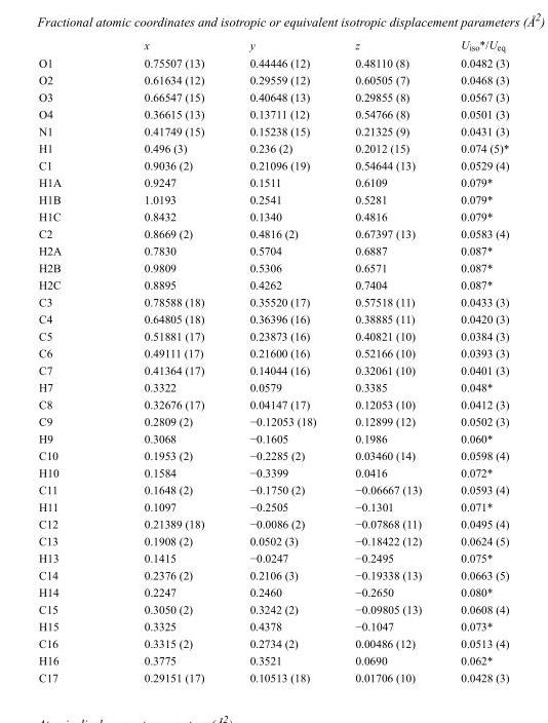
<table><thead><tr><td></td><td>x</td><td>y</td><td>z</td><td>U<sub>iso</sub>*/U<sub>eq</sub></td></tr></thead><tbody><tr><td>O1</td><td>0.75507 (13)</td><td>0.44446 (12)</td><td>0.48110 (8)</td><td>0.0482 (3)</td></tr><tr><td>O2</td><td>0.61634 (12)</td><td>0.29559 (12)</td><td>0.60505 (7)</td><td>0.0468 (3)</td></tr><tr><td>O3</td><td>0.66547 (15)</td><td>0.40648 (13)</td><td>0.29855 (8)</td><td>0.0567 (3)</td></tr><tr><td>O4</td><td>0.36615 (13)</td><td>0.13711 (12)</td><td>0.54766 (8)</td><td>0.0501 (3)</td></tr><tr><td>N1</td><td>0.41749 (15)</td><td>0.15238 (15)</td><td>0.21325 (9)</td><td>0.0431 (3)</td></tr><tr><td>H1</td><td>0.496 (3)</td><td>0.236 (2)</td><td>0.2012 (15)</td><td>0.074 (5)*</td></tr><tr><td>C1</td><td>0.9036 (2)</td><td>0.21096 (19)</td><td>0.54644 (13)</td><td>0.0529 (4)</td></tr><tr><td>H1A</td><td>0.9247</td><td>0.1511</td><td>0.6109</td><td>0.079*</td></tr><tr><td>H1B</td><td>1.0193</td><td>0.2541</td><td>0.5281</td><td>0.079*</td></tr><tr><td>H1C</td><td>0.8432</td><td>0.1340</td><td>0.4816</td><td>0.079*</td></tr><tr><td>C2</td><td>0.8669 (2)</td><td>0.4816 (2)</td><td>0.67397 (13)</td><td>0.0583 (4)</td></tr><tr><td>H2A</td><td>0.7830</td><td>0.5704</td><td>0.6887</td><td>0.087*</td></tr><tr><td>H2B</td><td>0.9809</td><td>0.5306</td><td>0.6571</td><td>0.087*</td></tr><tr><td>H2C</td><td>0.8895</td><td>0.4262</td><td>0.7404</td><td>0.087*</td></tr><tr><td>C3</td><td>0.78588 (18)</td><td>0.35520 (17)</td><td>0.57518 (11)</td><td>0.0433 (3)</td></tr><tr><td>C4</td><td>0.64805 (18)</td><td>0.36396 (16)</td><td>0.38885 (11)</td><td>0.0420 (3)</td></tr><tr><td>C5</td><td>0.51881 (17)</td><td>0.23873 (16)</td><td>0.40821 (10)</td><td>0.0384 (3)</td></tr><tr><td>C6</td><td>0.49111 (17)</td><td>0.21600 (16)</td><td>0.52166 (10)</td><td>0.0393 (3)</td></tr><tr><td>C7</td><td>0.41364 (17)</td><td>0.14044 (16)</td><td>0.32061 (10)</td><td>0.0401 (3)</td></tr><tr><td>H7</td><td>0.3322</td><td>0.0579</td><td>0.3385</td><td>0.048*</td></tr><tr><td>C8</td><td>0.32676 (17)</td><td>0.04147 (17)</td><td>0.12053 (10)</td><td>0.0412 (3)</td></tr><tr><td>C9</td><td>0.2809 (2)</td><td>−0.12053 (18)</td><td>0.12899 (12)</td><td>0.0502 (3)</td></tr><tr><td>H9</td><td>0.3068</td><td>−0.1605</td><td>0.1986</td><td>0.060*</td></tr><tr><td>C10</td><td>0.1953 (2)</td><td>−0.2285 (2)</td><td>0.03460 (14)</td><td>0.0598 (4)</td></tr><tr><td>H10</td><td>0.1584</td><td>−0.3399</td><td>0.0416</td><td>0.072*</td></tr><tr><td>C11</td><td>0.1648 (2)</td><td>−0.1750 (2)</td><td>−0.06667 (13)</td><td>0.0593 (4)</td></tr><tr><td>H11</td><td>0.1097</td><td>−0.2505</td><td>−0.1301</td><td>0.071*</td></tr><tr><td>C12</td><td>0.21389 (18)</td><td>−0.0086 (2)</td><td>−0.07868 (11)</td><td>0.0495 (4)</td></tr><tr><td>C13</td><td>0.1908 (2)</td><td>0.0502 (3)</td><td>−0.18422 (12)</td><td>0.0624 (5)</td></tr><tr><td>H13</td><td>0.1415</td><td>−0.0247</td><td>−0.2495</td><td>0.075*</td></tr><tr><td>C14</td><td>0.2376 (2)</td><td>0.2106 (3)</td><td>−0.19338 (13)</td><td>0.0663 (5)</td></tr><tr><td>H14</td><td>0.2247</td><td>0.2460</td><td>−0.2650</td><td>0.080*</td></tr><tr><td>C15</td><td>0.3050 (2)</td><td>0.3242 (2)</td><td>−0.09805 (13)</td><td>0.0608 (4)</td></tr><tr><td>H15</td><td>0.3325</td><td>0.4378</td><td>−0.1047</td><td>0.073*</td></tr><tr><td>C16</td><td>0.3315 (2)</td><td>0.2734 (2)</td><td>0.00486 (12)</td><td>0.0513 (4)</td></tr><tr><td>H16</td><td>0.3775</td><td>0.3521</td><td>0.0690</td><td>0.062*</td></tr><tr><td>C17</td><td>0.29151 (17)</td><td>0.10513 (18)</td><td>0.01706 (10)</td><td>0.0428 (3)</td></tr></tbody></table>